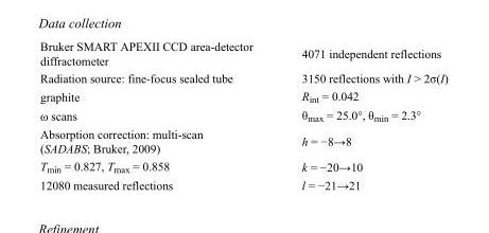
<table><tbody><tr><td>Bruker SMART APEXII CCD area-detector diffractometer</td><td>4071 independent reflections</td></tr><tr><td>Radiation source: fine-focus sealed tube</td><td>3150 reflections with I &gt; 2σ(I)</td></tr><tr><td>graphite</td><td>R<sub>int</sub> = 0.042</td></tr><tr><td>ω scans</td><td>θ<sub>max</sub> = 25.0°, θ<sub>min</sub> = 2.3°</td></tr><tr><td>Absorption correction: multi-scan (SADABS; Bruker, 2009)</td><td>h = −8→8</td></tr><tr><td>T<sub>min</sub> = 0.827, T<sub>max</sub> = 0.858</td><td>k = −20→10</td></tr><tr><td>12080 measured reflections</td><td>l = −21→21</td></tr></tbody></table>